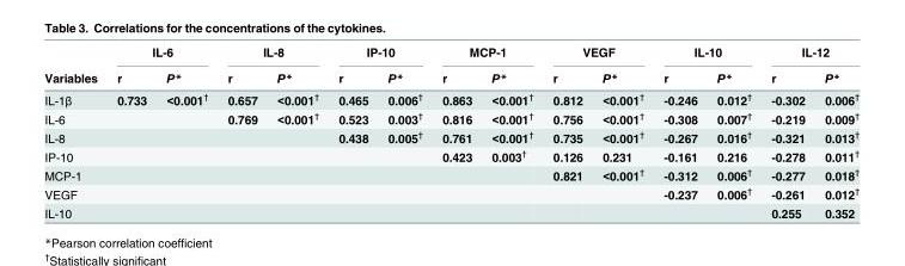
<table><thead><tr><td rowspan="2">Variables</td><td colspan="2">IL-6</td><td colspan="2">IL-8</td><td colspan="2">IP-10</td><td colspan="2">MCP-1</td><td colspan="2">VEGF</td><td colspan="2">IL-10</td><td colspan="2">IL-12</td></tr><tr><td>r</td><td>P*</td><td>r</td><td>P*</td><td>r</td><td>P*</td><td>r</td><td>P*</td><td>r</td><td>P*</td><td>r</td><td>P*</td><td>r</td><td>P*</td></tr></thead><tbody><tr><td>IL-1β</td><td>0.733</td><td>&lt;0.001<sup>†</sup></td><td>0.657</td><td>&lt;0.001<sup>†</sup></td><td>0.465</td><td>0.006<sup>†</sup></td><td>0.863</td><td>&lt;0.001<sup>†</sup></td><td>0.812</td><td>&lt;0.001<sup>†</sup></td><td>-0.246</td><td>0.012<sup>†</sup></td><td>-0.302</td><td>0.006<sup>†</sup></td></tr><tr><td>IL-6</td><td></td><td></td><td>0.769</td><td>&lt;0.001<sup>†</sup></td><td>0.523</td><td>0.003<sup>†</sup></td><td>0.816</td><td>&lt;0.001<sup>†</sup></td><td>0.756</td><td>&lt;0.001<sup>†</sup></td><td>-0.308</td><td>0.007<sup>†</sup></td><td>-0.219</td><td>0.009<sup>†</sup></td></tr><tr><td>IL-8</td><td></td><td></td><td></td><td></td><td>0.438</td><td>0.005<sup>†</sup></td><td>0.761</td><td>&lt;0.001<sup>†</sup></td><td>0.735</td><td>&lt;0.001<sup>†</sup></td><td>-0.267</td><td>0.016<sup>†</sup></td><td>-0.321</td><td>0.013<sup>†</sup></td></tr><tr><td>IP-10</td><td></td><td></td><td></td><td></td><td></td><td></td><td>0.423</td><td>0.003<sup>†</sup></td><td>0.126</td><td>0.231</td><td>-0.161</td><td>0.216</td><td>-0.278</td><td>0.011<sup>†</sup></td></tr><tr><td>MCP-1</td><td></td><td></td><td></td><td></td><td></td><td></td><td></td><td></td><td>0.821</td><td>&lt;0.001<sup>†</sup></td><td>-0.312</td><td>0.006<sup>†</sup></td><td>-0.277</td><td>0.018<sup>†</sup></td></tr><tr><td>VEGF</td><td></td><td></td><td></td><td></td><td></td><td></td><td></td><td></td><td></td><td></td><td>-0.237</td><td>0.006<sup>†</sup></td><td>-0.261</td><td>0.012<sup>†</sup></td></tr><tr><td>IL-10</td><td></td><td></td><td></td><td></td><td></td><td></td><td></td><td></td><td></td><td></td><td></td><td></td><td>0.255</td><td>0.352</td></tr></tbody></table>